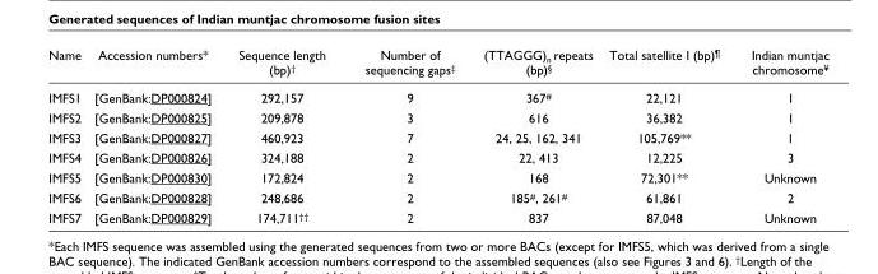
<table><thead><tr><td>Name</td><td>Accession numbers*</td><td>Sequence length (bp)<sup>†</sup></td><td>Number of sequencing gaps<sup>‡</sup></td><td>(TTAGGG)<sub>n</sub> repeats (bp)<sup>§</sup></td><td>Total satellite I (bp)<sup>¶</sup></td><td>Indian muntjac chromosome<sup>¥</sup></td></tr></thead><tbody><tr><td>IMFS1</td><td>[GenBank:DP000824]</td><td>292,157</td><td>9</td><td>367<sup>#</sup></td><td>22,121</td><td>1</td></tr><tr><td>IMFS2</td><td>[GenBank:DP000825]</td><td>209,878</td><td>3</td><td>616</td><td>36,382</td><td>1</td></tr><tr><td>IMFS3</td><td>[GenBank:DP000827]</td><td>460,923</td><td>7</td><td>24, 25, 162, 341</td><td>105,769**</td><td>1</td></tr><tr><td>IMFS4</td><td>[GenBank:DP000826]</td><td>324,188</td><td>2</td><td>22, 413</td><td>12,225</td><td>3</td></tr><tr><td>IMFS5</td><td>[GenBank:DP000830]</td><td>172,824</td><td>2</td><td>168</td><td>72,301**</td><td>Unknown</td></tr><tr><td>IMFS6</td><td>[GenBank:DP000828]</td><td>248,686</td><td>2</td><td>185<sup>#</sup>, 261<sup>#</sup></td><td>61,861</td><td>2</td></tr><tr><td>IMFS7</td><td>[GenBank:DP000829]</td><td>174,711<sup>††</sup></td><td>2</td><td>837</td><td>87,048</td><td>Unknown</td></tr></tbody></table>